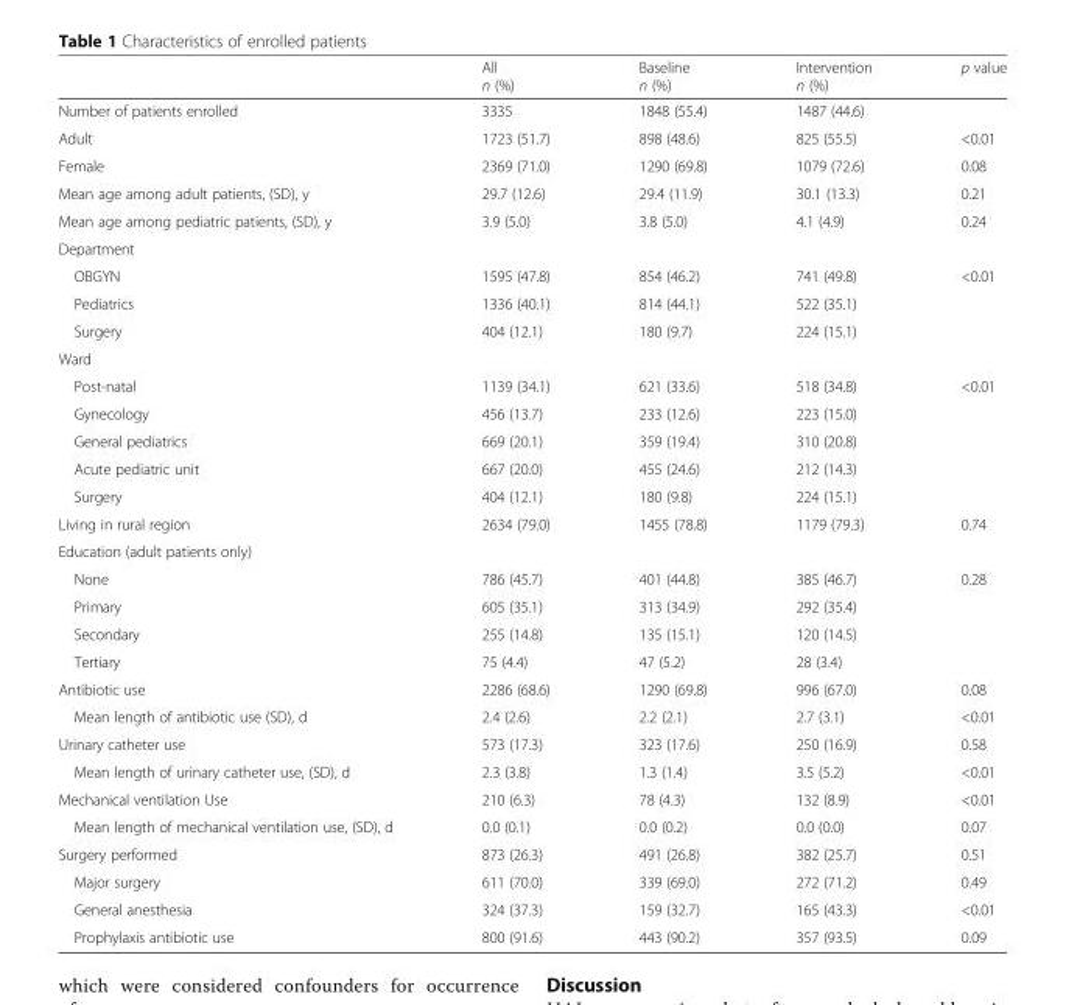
<table><thead><tr><td></td><td>All n (%)</td><td>Baseline n (%)</td><td>Intervention n (%)</td><td>p value</td></tr></thead><tbody><tr><td>Number of patients enrolled</td><td>3335</td><td>1848 (55.4)</td><td>1487 (44.6)</td><td></td></tr><tr><td>Adult</td><td>1723 (51.7)</td><td>898 (48.6)</td><td>825 (55.5)</td><td>&lt;0.01</td></tr><tr><td>Female</td><td>2369 (71.0)</td><td>1290 (69.8)</td><td>1079 (72.6)</td><td>0.08</td></tr><tr><td>Mean age among adult patients, (SD), y</td><td>29.7 (12.6)</td><td>29.4 (11.9)</td><td>30.1 (13.3)</td><td>0.21</td></tr><tr><td>Mean age among pediatric patients, (SD), y</td><td>3.9 (5.0)</td><td>3.8 (5.0)</td><td>4.1 (4.9)</td><td>0.24</td></tr><tr><td colspan="5">Department</td></tr><tr><td>OBGYN</td><td>1595 (47.8)</td><td>854 (46.2)</td><td>741 (49.8)</td><td>&lt;0.01</td></tr><tr><td>Pediatrics</td><td>1336 (40.1)</td><td>814 (44.1)</td><td>522 (35.1)</td><td></td></tr><tr><td>Surgery</td><td>404 (12.1)</td><td>180 (9.7)</td><td>224 (15.1)</td><td></td></tr><tr><td colspan="5">Ward</td></tr><tr><td>Post-natal</td><td>1139 (34.1)</td><td>621 (33.6)</td><td>518 (34.8)</td><td>&lt;0.01</td></tr><tr><td>Gynecology</td><td>456 (13.7)</td><td>233 (12.6)</td><td>223 (15.0)</td><td></td></tr><tr><td>General pediatrics</td><td>669 (20.1)</td><td>359 (19.4)</td><td>310 (20.8)</td><td></td></tr><tr><td>Acute pediatric unit</td><td>667 (20.0)</td><td>455 (24.6)</td><td>212 (14.3)</td><td></td></tr><tr><td>Surgery</td><td>404 (12.1)</td><td>180 (9.8)</td><td>224 (15.1)</td><td></td></tr><tr><td>Living in rural region</td><td>2634 (79.0)</td><td>1455 (78.8)</td><td>1179 (79.3)</td><td>0.74</td></tr><tr><td colspan="5">Education (adult patients only)</td></tr><tr><td>None</td><td>786 (45.7)</td><td>401 (44.8)</td><td>385 (46.7)</td><td>0.28</td></tr><tr><td>Primary</td><td>605 (35.1)</td><td>313 (34.9)</td><td>292 (35.4)</td><td></td></tr><tr><td>Secondary</td><td>255 (14.8)</td><td>135 (15.1)</td><td>120 (14.5)</td><td></td></tr><tr><td>Tertiary</td><td>75 (4.4)</td><td>47 (5.2)</td><td>28 (3.4)</td><td></td></tr><tr><td>Antibiotic use</td><td>2286 (68.6)</td><td>1290 (69.8)</td><td>996 (67.0)</td><td>0.08</td></tr><tr><td>Mean length of antibiotic use (SD), d</td><td>2.4 (2.6)</td><td>2.2 (2.1)</td><td>2.7 (3.1)</td><td>&lt;0.01</td></tr><tr><td>Urinary catheter use</td><td>573 (17.3)</td><td>323 (17.6)</td><td>250 (16.9)</td><td>0.58</td></tr><tr><td>Mean length of urinary catheter use, (SD), d</td><td>2.3 (3.8)</td><td>1.3 (1.4)</td><td>3.5 (5.2)</td><td>&lt;0.01</td></tr><tr><td>Mechanical ventilation Use</td><td>210 (6.3)</td><td>78 (4.3)</td><td>132 (8.9)</td><td>&lt;0.01</td></tr><tr><td>Mean length of mechanical ventilation use, (SD), d</td><td>0.0 (0.1)</td><td>0.0 (0.2)</td><td>0.0 (0.0)</td><td>0.07</td></tr><tr><td>Surgery performed</td><td>873 (26.3)</td><td>491 (26.8)</td><td>382 (25.7)</td><td>0.51</td></tr><tr><td>Major surgery</td><td>611 (70.0)</td><td>339 (69.0)</td><td>272 (71.2)</td><td>0.49</td></tr><tr><td>General anesthesia</td><td>324 (37.3)</td><td>159 (32.7)</td><td>165 (43.3)</td><td>&lt;0.01</td></tr><tr><td>Prophylaxis antibiotic use</td><td>800 (91.6)</td><td>443 (90.2)</td><td>357 (93.5)</td><td>0.09</td></tr></tbody></table>